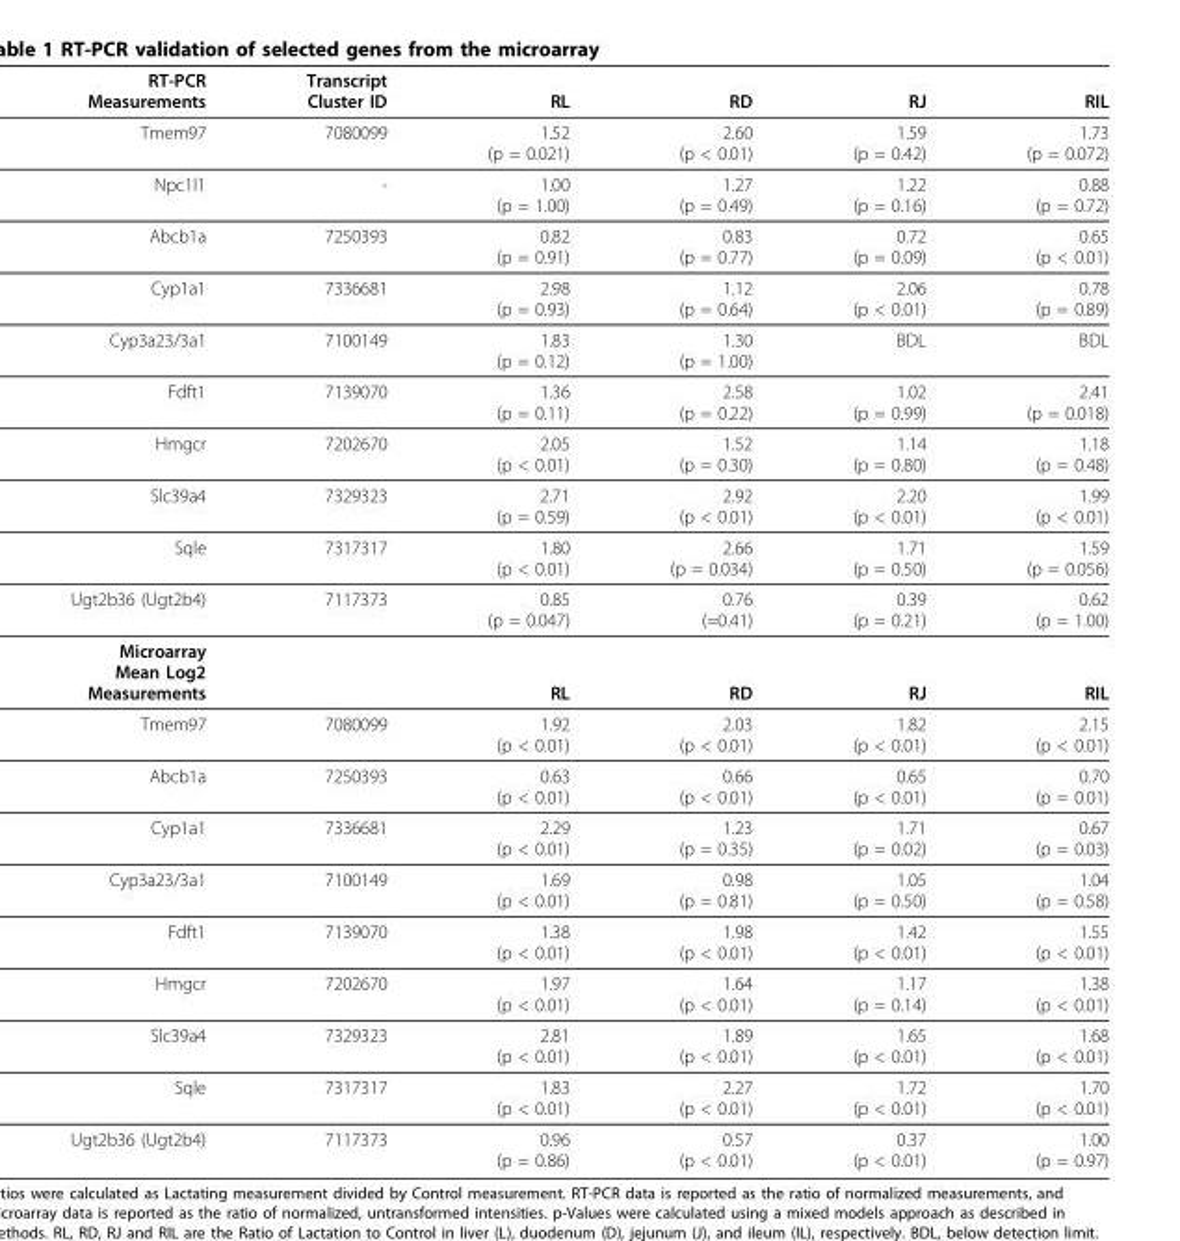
<table><thead><tr><td>RT-PCR Measurements</td><td>Transcript Cluster ID</td><td>RL</td><td>RD</td><td>RJ</td><td>RIL</td></tr></thead><tbody><tr><td>Tmem97</td><td>7080099</td><td>1.52 (p = 0.021)</td><td>2.60 (p &lt; 0.01)</td><td>1.59 (p = 0.42)</td><td>1.73 (p = 0.072)</td></tr><tr><td>Npc1l1</td><td>-</td><td>1.00 (p = 1.00)</td><td>1.27 (p = 0.49)</td><td>1.22 (p = 0.16)</td><td>0.88 (p = 0.72)</td></tr><tr><td>Abcb1a</td><td>7250393</td><td>0.82 (p = 0.91)</td><td>0.83 (p = 0.77)</td><td>0.72 (p = 0.09)</td><td>0.65 (p &lt; 0.01)</td></tr><tr><td>Cyp1a1</td><td>7336681</td><td>2.98 (p = 0.93)</td><td>1.12 (p = 0.64)</td><td>2.06 (p &lt; 0.01)</td><td>0.78 (p = 0.89)</td></tr><tr><td>Cyp3a23/3a1</td><td>7100149</td><td>1.83 (p = 0.12)</td><td>1.30 (p = 1.00)</td><td>BDL</td><td>BDL</td></tr><tr><td>Fdft1</td><td>7139070</td><td>1.36 (p = 0.11)</td><td>2.58 (p = 0.22)</td><td>1.02 (p = 0.99)</td><td>2.41 (p = 0.018)</td></tr><tr><td>Hmgcr</td><td>7202670</td><td>2.05 (p &lt; 0.01)</td><td>1.52 (p = 0.30)</td><td>1.14 (p = 0.80)</td><td>1.18 (p = 0.48)</td></tr><tr><td>Slc39a4</td><td>7329323</td><td>2.71 (p = 0.59)</td><td>2.92 (p &lt; 0.01)</td><td>2.20 (p &lt; 0.01)</td><td>1.99 (p &lt; 0.01)</td></tr><tr><td>Sqle</td><td>7317317</td><td>1.80 (p &lt; 0.01)</td><td>2.66 (p = 0.034)</td><td>1.71 (p = 0.50)</td><td>1.59 (p = 0.056)</td></tr><tr><td>Ugt2b36 (Ugt2b4)</td><td>7117373</td><td>0.85 (p = 0.047)</td><td>0.76 (=0.41)</td><td>0.39 (p = 0.21)</td><td>0.62 (p = 1.00)</td></tr><tr><td>Microarray Mean Log2 Measurements</td><td></td><td>RL</td><td>RD</td><td>RJ</td><td>RIL</td></tr><tr><td>Tmem97</td><td>7080099</td><td>1.92 (p &lt; 0.01)</td><td>2.03 (p &lt; 0.01)</td><td>1.82 (p &lt; 0.01)</td><td>2.15 (p &lt; 0.01)</td></tr><tr><td>Abcb1a</td><td>7250393</td><td>0.63 (p &lt; 0.01)</td><td>0.66 (p &lt; 0.01)</td><td>0.65 (p &lt; 0.01)</td><td>0.70 (p = 0.01)</td></tr><tr><td>Cyp1a1</td><td>7336681</td><td>2.29 (p &lt; 0.01)</td><td>1.23 (p = 0.35)</td><td>1.71 (p = 0.02)</td><td>0.67 (p = 0.03)</td></tr><tr><td>Cyp3a23/3a1</td><td>7100149</td><td>1.69 (p &lt; 0.01)</td><td>0.98 (p = 0.81)</td><td>1.05 (p = 0.50)</td><td>1.04 (p = 0.58)</td></tr><tr><td>Fdft1</td><td>7139070</td><td>1.38 (p &lt; 0.01)</td><td>1.98 (p &lt; 0.01)</td><td>1.42 (p &lt; 0.01)</td><td>1.55 (p &lt; 0.01)</td></tr><tr><td>Hmgcr</td><td>7202670</td><td>1.97 (p &lt; 0.01)</td><td>1.64 (p &lt; 0.01)</td><td>1.17 (p = 0.14)</td><td>1.38 (p &lt; 0.01)</td></tr><tr><td>Slc39a4</td><td>7329323</td><td>2.81 (p &lt; 0.01)</td><td>1.89 (p &lt; 0.01)</td><td>1.65 (p &lt; 0.01)</td><td>1.68 (p &lt; 0.01)</td></tr><tr><td>Sqle</td><td>7317317</td><td>1.83 (p &lt; 0.01)</td><td>2.27 (p &lt; 0.01)</td><td>1.72 (p &lt; 0.01)</td><td>1.70 (p &lt; 0.01)</td></tr><tr><td>Ugt2b36 (Ugt2b4)</td><td>7117373</td><td>0.96 (p = 0.86)</td><td>0.57 (p &lt; 0.01)</td><td>0.37 (p &lt; 0.01)</td><td>1.00 (p = 0.97)</td></tr></tbody></table>